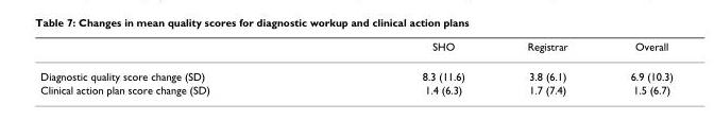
<table><thead><tr><td></td><td>SHO</td><td>Registrar</td><td>Overall</td></tr></thead><tbody><tr><td>Diagnostic quality score change (SD)</td><td>8.3 (11.6)</td><td>3.8 (6.1)</td><td>6.9 (10.3)</td></tr><tr><td>Clinical action plan score change (SD)</td><td>1.4 (6.3)</td><td>1.7 (7.4)</td><td>1.5 (6.7)</td></tr></tbody></table>